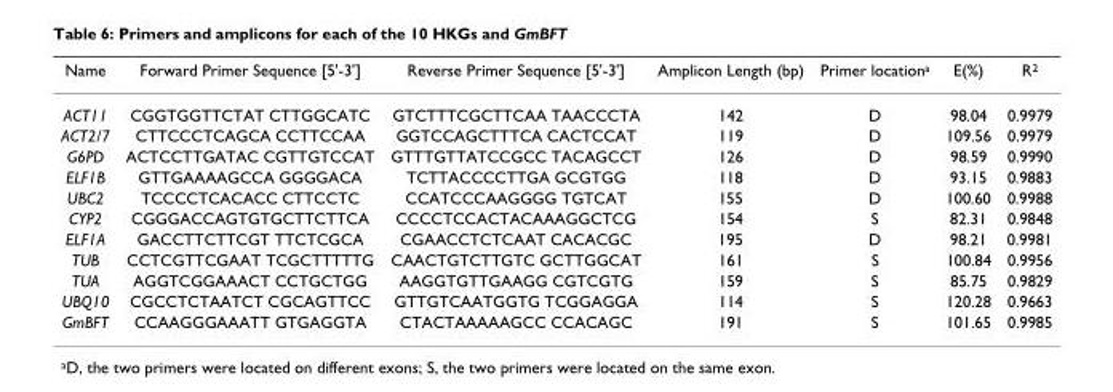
<table><thead><tr><td>Name</td><td>Forward Primer Sequence [5&#x27;-3&#x27;]</td><td>Reverse Primer Sequence [5&#x27;-3&#x27;]</td><td>Amplicon Length (bp)</td><td>Primer location<sup>a</sup></td><td>E(%)</td><td>R<sup>2</sup></td></tr></thead><tbody><tr><td>ACT11</td><td>CGGTGGTTCTAT CTTGGCATC</td><td>GTCTTTCGCTTCAA TAACCCTA</td><td>142</td><td>D</td><td>98.04</td><td>0.9979</td></tr><tr><td>ACT2/7</td><td>CTTCCCTCAGCA CCTTCCAA</td><td>GGTCCAGCTTTCA CACTCCAT</td><td>119</td><td>D</td><td>109.56</td><td>0.9979</td></tr><tr><td>G6PD</td><td>ACTCCTTGATAC CGTTGTCCAT</td><td>GTTTGTTATCCGCC TACAGCCT</td><td>126</td><td>D</td><td>98.59</td><td>0.9990</td></tr><tr><td>ELF1B</td><td>GTTGAAAAGCCA GGGGACA</td><td>TCTTACCCCTTGA GCGTGG</td><td>118</td><td>D</td><td>93.15</td><td>0.9883</td></tr><tr><td>UBC2</td><td>TCCCCTCACACC CTTCCTC</td><td>CCATCCCAAGGGG TGTCAT</td><td>155</td><td>D</td><td>100.60</td><td>0.9988</td></tr><tr><td>CYP2</td><td>CGGGACCAGTGTGCTTCTTCA</td><td>CCCCTCCACTACAAAGGCTCG</td><td>154</td><td>S</td><td>82.31</td><td>0.9848</td></tr><tr><td>ELF1A</td><td>GACCTTCTTCGT TTCTCGCA</td><td>CGAACCTCTCAAT CACACGC</td><td>195</td><td>D</td><td>98.21</td><td>0.9981</td></tr><tr><td>TUB</td><td>CCTCGTTCGAAT TCGCTTTTTG</td><td>CAACTGTCTTGTC GCTTGGCAT</td><td>161</td><td>S</td><td>100.84</td><td>0.9956</td></tr><tr><td>TUA</td><td>AGGTCGGAAACT CCTGCTGG</td><td>AAGGTGTTGAAGG CGTCGTG</td><td>159</td><td>S</td><td>85.75</td><td>0.9829</td></tr><tr><td>UBQ10</td><td>CGCCTCTAATCT CGCAGTTCC</td><td>GTTGTCAATGGTG TCGGAGGA</td><td>114</td><td>S</td><td>120.28</td><td>0.9663</td></tr><tr><td>GmBFT</td><td>CCAAGGGAAATT GTGAGGTA</td><td>CTACTAAAAAGCC CCACAGC</td><td>191</td><td>S</td><td>101.65</td><td>0.9985</td></tr></tbody></table>